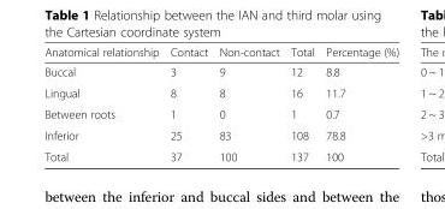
<table><thead><tr><td>Anatomical relationship</td><td>Contact</td><td>Non-contact</td><td>Total</td><td>Percentage (%)</td></tr></thead><tbody><tr><td>Buccal</td><td>3</td><td>9</td><td>12</td><td>8.8</td></tr><tr><td>Lingual</td><td>8</td><td>8</td><td>16</td><td>11.7</td></tr><tr><td>Between roots</td><td>1</td><td>0</td><td>1</td><td>0.7</td></tr><tr><td>Inferior</td><td>25</td><td>83</td><td>108</td><td>78.8</td></tr><tr><td>Total</td><td>37</td><td>100</td><td>137</td><td>100</td></tr></tbody></table>